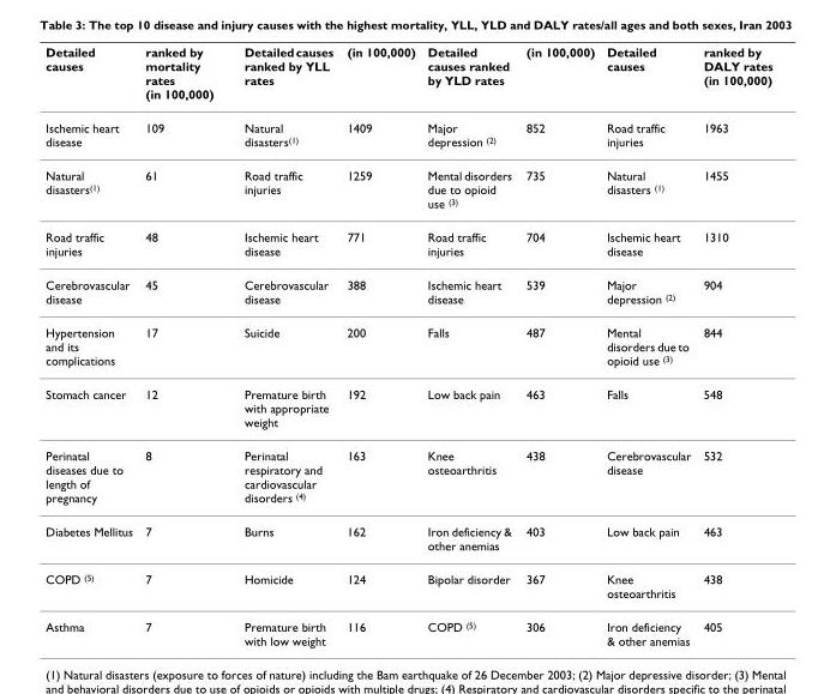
<table><thead><tr><td>Detailed causes</td><td>ranked by mortality rates (in 100,000)</td><td>Detailed causes ranked by YLL rates</td><td>(in 100,000)</td><td>Detailed causes ranked by YLD rates</td><td>(in 100,000)</td><td>Detailed causes</td><td>ranked by DALY rates (in 100,000)</td></tr></thead><tbody><tr><td>Ischemic heart disease</td><td>109</td><td>Natural disasters<sup>(1)</sup></td><td>1409</td><td>Major depression <sup>(2)</sup></td><td>852</td><td>Road traffic injuries</td><td>1963</td></tr><tr><td>Natural disasters<sup>(1)</sup></td><td>61</td><td>Road traffic injuries</td><td>1259</td><td>Mental disorders due to opioid use <sup>(3)</sup></td><td>735</td><td>Natural disasters <sup>(1)</sup></td><td>1455</td></tr><tr><td>Road traffic injuries</td><td>48</td><td>Ischemic heart disease</td><td>771</td><td>Road traffic injuries</td><td>704</td><td>Ischemic heart disease</td><td>1310</td></tr><tr><td>Cerebrovascular disease</td><td>45</td><td>Cerebrovascular disease</td><td>388</td><td>Ischemic heart disease</td><td>539</td><td>Major depression <sup>(2)</sup></td><td>904</td></tr><tr><td>Hypertension and its complications</td><td>17</td><td>Suicide</td><td>200</td><td>Falls</td><td>487</td><td>Mental disorders due to opioid use <sup>(3)</sup></td><td>844</td></tr><tr><td>Stomach cancer</td><td>12</td><td>Premature birth with appropriate weight</td><td>192</td><td>Low back pain</td><td>463</td><td>Falls</td><td>548</td></tr><tr><td>Perinatal diseases due to length of pregnancy</td><td>8</td><td>Perinatal respiratory and cardiovascular disorders <sup>(4)</sup></td><td>163</td><td>Knee osteoarthritis</td><td>438</td><td>Cerebrovascular disease</td><td>532</td></tr><tr><td>Diabetes Mellitus</td><td>7</td><td>Burns</td><td>162</td><td>Iron deficiency &amp; other anemias</td><td>403</td><td>Low back pain</td><td>463</td></tr><tr><td>COPD <sup>(5)</sup></td><td>7</td><td>Homicide</td><td>124</td><td>Bipolar disorder</td><td>367</td><td>Knee osteoarthritis</td><td>438</td></tr><tr><td>Asthma</td><td>7</td><td>Premature birth with low weight</td><td>116</td><td>COPD <sup>(5)</sup></td><td>306</td><td>Iron deficiency &amp; other anemias</td><td>405</td></tr></tbody></table>